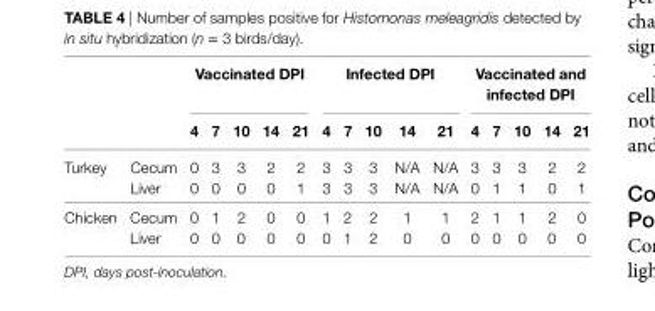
<table><thead><tr><td rowspan="2"></td><td rowspan="2"></td><td colspan="5">Vaccinated DPi</td><td colspan="5">infected DPi</td><td colspan="5">Vaccinated and infected DPi</td></tr><tr><td>4</td><td>7</td><td>10</td><td>14</td><td>21</td><td>4</td><td>7</td><td>10</td><td>14</td><td>21</td><td>4</td><td>7</td><td>10</td><td>14</td><td>21</td></tr></thead><tbody><tr><td rowspan="2">Turkey</td><td>Cecum</td><td>0</td><td>3</td><td>3</td><td>2</td><td>2</td><td>3</td><td>3</td><td>3</td><td>N/A</td><td>N/A</td><td>3</td><td>3</td><td>3</td><td>2</td><td>2</td></tr><tr><td>Liver</td><td>0</td><td>0</td><td>0</td><td>0</td><td>1</td><td>3</td><td>3</td><td>3</td><td>N/A</td><td>N/A</td><td>0</td><td>1</td><td>1</td><td>0</td><td>1</td></tr><tr><td rowspan="2">Chicken</td><td>Cecum</td><td>0</td><td>1</td><td>2</td><td>0</td><td>0</td><td>1</td><td>2</td><td>2</td><td>1</td><td>1</td><td>2</td><td>1</td><td>1</td><td>2</td><td>0</td></tr><tr><td>Liver</td><td>0</td><td>0</td><td>0</td><td>0</td><td>0</td><td>0</td><td>1</td><td>2</td><td>0</td><td>0</td><td>0</td><td>0</td><td>0</td><td>0</td><td>0</td></tr></tbody></table>